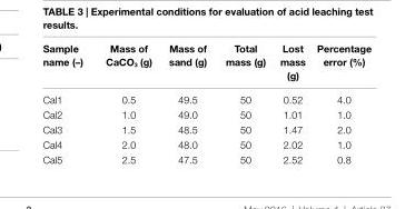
<table><thead><tr><td>sample name (–)</td><td>Mass of cacO<sub>3</sub> (g)</td><td>Mass of sand (g)</td><td>Total mass (g)</td><td>lost mass (g)</td><td>Percentage error (%)</td></tr></thead><tbody><tr><td>Cal1</td><td>0.5</td><td>49.5</td><td>50</td><td>0.52</td><td>4.0</td></tr><tr><td>Cal2</td><td>1.0</td><td>49.0</td><td>50</td><td>1.01</td><td>1.0</td></tr><tr><td>Cal3</td><td>1.5</td><td>48.5</td><td>50</td><td>1.47</td><td>2.0</td></tr><tr><td>Cal4</td><td>2.0</td><td>48.0</td><td>50</td><td>2.02</td><td>1.0</td></tr><tr><td>Cal5</td><td>2.5</td><td>47.5</td><td>50</td><td>2.52</td><td>0.8</td></tr></tbody></table>